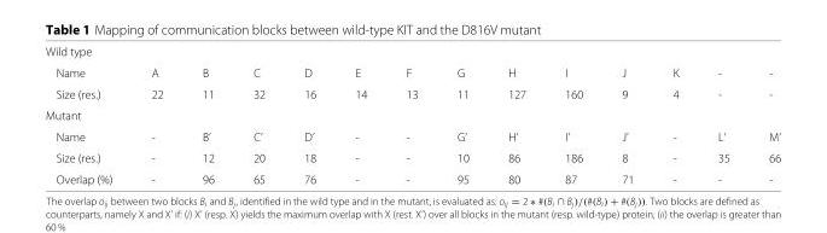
<table><tbody><tr><td colspan="14">Wild type</td></tr><tr><td>Name</td><td>A</td><td>B</td><td>C</td><td>D</td><td>E</td><td>F</td><td>G</td><td>H</td><td>I</td><td>J</td><td>K</td><td>-</td><td>-</td></tr><tr><td>Size (res.)</td><td>22</td><td>11</td><td>32</td><td>16</td><td>14</td><td>13</td><td>11</td><td>127</td><td>160</td><td>9</td><td>4</td><td>-</td><td>-</td></tr><tr><td colspan="14">Mutant</td></tr><tr><td>Name</td><td>-</td><td>B’</td><td>C’</td><td>D’</td><td>-</td><td>-</td><td>G’</td><td>H’</td><td>I’</td><td>J’</td><td>-</td><td>L’</td><td>M’</td></tr><tr><td>Size (res.)</td><td>-</td><td>12</td><td>20</td><td>18</td><td>-</td><td>-</td><td>10</td><td>86</td><td>186</td><td>8</td><td>-</td><td>35</td><td>66</td></tr><tr><td>Overlap (%)</td><td>-</td><td>96</td><td>65</td><td>76</td><td>-</td><td>-</td><td>95</td><td>80</td><td>87</td><td>71</td><td>-</td><td>-</td><td>-</td></tr></tbody></table>